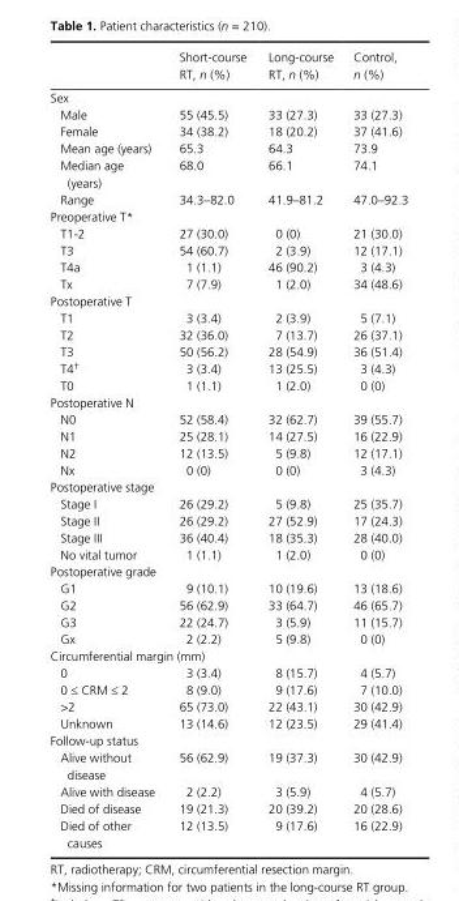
<table><thead><tr><td></td><td>Short- course RT, n (%)</td><td>Long- course RT, n (%)</td><td>Control, n (%)</td></tr></thead><tbody><tr><td colspan="4">Sex</td></tr><tr><td>Male</td><td>55 (45.5)</td><td>33 (27.3)</td><td>33 (27.3)</td></tr><tr><td>Female</td><td>34 (38.2)</td><td>18 (20.2)</td><td>37 (41.6)</td></tr><tr><td>Mean age (years)</td><td>65.3</td><td>64.3</td><td>73.9</td></tr><tr><td>Median age (years)</td><td>68.0</td><td>66.1</td><td>74.1</td></tr><tr><td>Range</td><td>34.3–82.0</td><td>41.9–81.2</td><td>47.0–92.3</td></tr><tr><td colspan="4">Preoperative T*</td></tr><tr><td>T1- 2</td><td>27 (30.0)</td><td>0 (0)</td><td>21 (30.0)</td></tr><tr><td>T3</td><td>54 (60.7)</td><td>2 (3.9)</td><td>12 (17.1)</td></tr><tr><td>T4a</td><td>1 (1.1)</td><td>46 (90.2)</td><td>3 (4.3)</td></tr><tr><td>Tx</td><td>7 (7.9)</td><td>1 (2.0)</td><td>34 (48.6)</td></tr><tr><td colspan="4">Postoperative T</td></tr><tr><td>T1</td><td>3 (3.4)</td><td>2 (3.9)</td><td>5 (7.1)</td></tr><tr><td>T2</td><td>32 (36.0)</td><td>7 (13.7)</td><td>26 (37.1)</td></tr><tr><td>T3</td><td>50 (56.2)</td><td>28 (54.9)</td><td>36 (51.4)</td></tr><tr><td>T4†</td><td>3 (3.4)</td><td>13 (25.5)</td><td>3 (4.3)</td></tr><tr><td>T0</td><td>1 (1.1)</td><td>1 (2.0)</td><td>0 (0)</td></tr><tr><td colspan="4">Postoperative N</td></tr><tr><td>N0</td><td>52 (58.4)</td><td>32 (62.7)</td><td>39 (55.7)</td></tr><tr><td>N1</td><td>25 (28.1)</td><td>14 (27.5)</td><td>16 (22.9)</td></tr><tr><td>N2</td><td>12 (13.5)</td><td>5 (9.8)</td><td>12 (17.1)</td></tr><tr><td>Nx</td><td>0 (0)</td><td>0 (0)</td><td>3 (4.3)</td></tr><tr><td colspan="4">Postoperative stage</td></tr><tr><td>Stage I</td><td>26 (29.2)</td><td>5 (9.8)</td><td>25 (35.7)</td></tr><tr><td>Stage II</td><td>26 (29.2)</td><td>27 (52.9)</td><td>17 (24.3)</td></tr><tr><td>Stage III</td><td>36 (40.4)</td><td>18 (35.3)</td><td>28 (40.0)</td></tr><tr><td>No vital tumor</td><td>1 (1.1)</td><td>1 (2.0)</td><td>0 (0)</td></tr><tr><td colspan="4">Postoperative grade</td></tr><tr><td>G1</td><td>9 (10.1)</td><td>10 (19.6)</td><td>13 (18.6)</td></tr><tr><td>G2</td><td>56 (62.9)</td><td>33 (64.7)</td><td>46 (65.7)</td></tr><tr><td>G3</td><td>22 (24.7)</td><td>3 (5.9)</td><td>11 (15.7)</td></tr><tr><td>Gx</td><td>2 (2.2)</td><td>5 (9.8)</td><td>0 (0)</td></tr><tr><td colspan="4">Circumferential margin (mm)</td></tr><tr><td>0</td><td>3 (3.4)</td><td>8 (15.7)</td><td>4 (5.7)</td></tr><tr><td>0 ≤ CRM ≤ 2</td><td>8 (9.0)</td><td>9 (17.6)</td><td>7 (10.0)</td></tr><tr><td>&gt;2</td><td>65 (73.0)</td><td>22 (43.1)</td><td>30 (42.9)</td></tr><tr><td>Unknown</td><td>13 (14.6)</td><td>12 (23.5)</td><td>29 (41.4)</td></tr><tr><td colspan="4">Follow- up status</td></tr><tr><td>Alive without disease</td><td>56 (62.9)</td><td>19 (37.3)</td><td>30 (42.9)</td></tr><tr><td>Alive with disease</td><td>2 (2.2)</td><td>3 (5.9)</td><td>4 (5.7)</td></tr><tr><td>Died of disease</td><td>19 (21.3)</td><td>20 (39.2)</td><td>20 (28.6)</td></tr><tr><td>Died of other causes</td><td>12 (13.5)</td><td>9 (17.6)</td><td>16 (22.9)</td></tr></tbody></table>